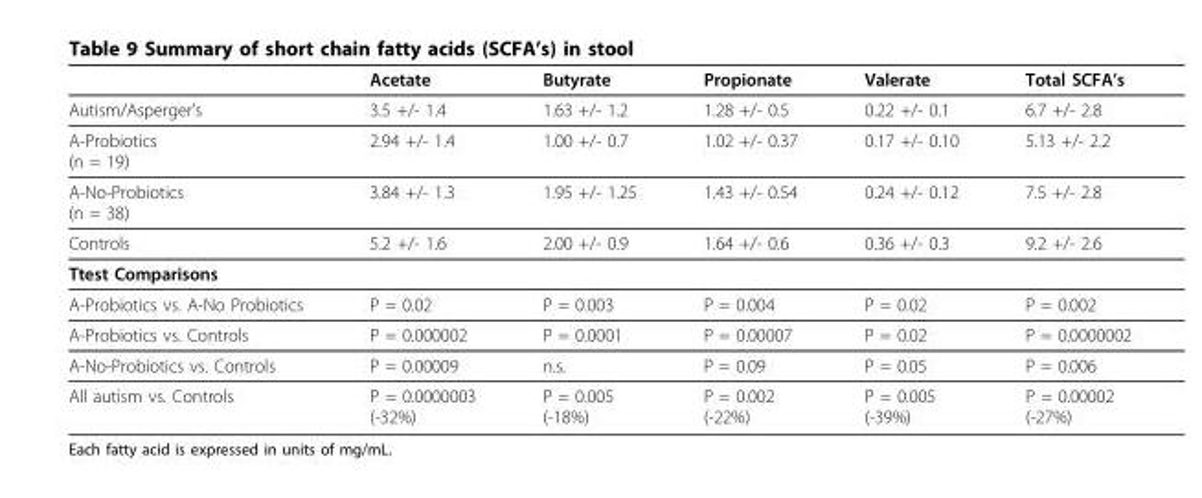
<table><thead><tr><td></td><td>Acetate</td><td>Butyrate</td><td>Propionate</td><td>Valerate</td><td>Total SCFA’s</td></tr></thead><tbody><tr><td>Autism/Asperger’s</td><td>3.5 +/- 1.4</td><td>1.63 +/- 1.2</td><td>1.28 +/- 0.5</td><td>0.22 +/- 0.1</td><td>6.7 +/- 2.8</td></tr><tr><td>A-Probiotics (n = 19)</td><td>2.94 +/- 1.4</td><td>1.00 +/- 0.7</td><td>1.02 +/- 0.37</td><td>0.17 +/- 0.10</td><td>5.13 +/- 2.2</td></tr><tr><td>A-No-Probiotics (n = 38)</td><td>3.84 +/- 1.3</td><td>1.95 +/- 1.25</td><td>1.43 +/- 0.54</td><td>0.24 +/- 0.12</td><td>7.5 +/- 2.8</td></tr><tr><td>Controls</td><td>5.2 +/- 1.6</td><td>2.00 +/- 0.9</td><td>1.64 +/- 0.6</td><td>0.36 +/- 0.3</td><td>9.2 +/- 2.6</td></tr><tr><td colspan="6">Ttest Comparisons</td></tr><tr><td>A-Probiotics vs. A-No Probiotics</td><td>P = 0.02</td><td>P = 0.003</td><td>P = 0.004</td><td>P = 0.02</td><td>P = 0.002</td></tr><tr><td>A-Probiotics vs. Controls</td><td>P = 0.000002</td><td>P = 0.0001</td><td>P = 0.00007</td><td>P = 0.02</td><td>P = 0.0000002</td></tr><tr><td>A-No-Probiotics vs. Controls</td><td>P = 0.00009</td><td>n.s.</td><td>P = 0.09</td><td>P = 0.05</td><td>P = 0.006</td></tr><tr><td>All autism vs. Controls</td><td>P = 0.0000003 (-32%)</td><td>P = 0.005 (-18%)</td><td>P = 0.002 (-22%)</td><td>P = 0.005 (-39%)</td><td>P = 0.00002 (-27%)</td></tr></tbody></table>